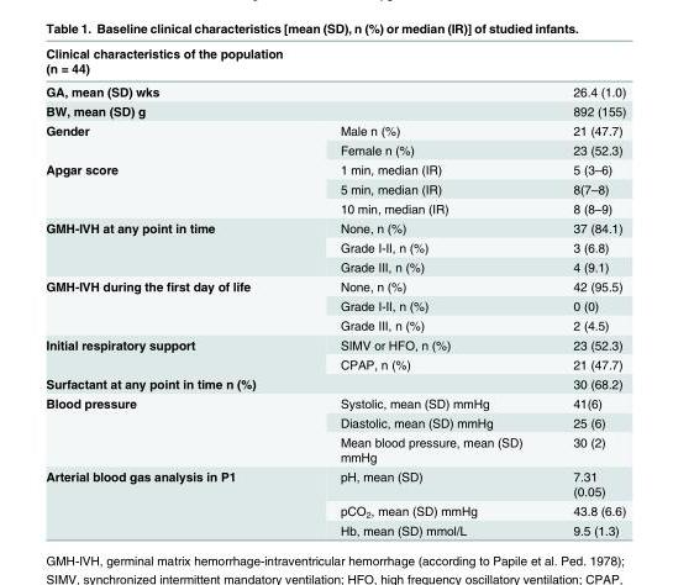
<table><thead><tr><td>Clinical characteristics of the population (n = 44)</td><td></td><td></td></tr></thead><tbody><tr><td>GA, mean (SD) wks</td><td></td><td>26.4 (1.0)</td></tr><tr><td>BW, mean (SD) g</td><td></td><td>892 (155)</td></tr><tr><td rowspan="2">Gender</td><td>Male n (%)</td><td>21 (47.7)</td></tr><tr><td>Female n (%)</td><td>23 (52.3)</td></tr><tr><td rowspan="3">Apgar score</td><td>1 min, median (IR)</td><td>5 (3–6)</td></tr><tr><td>5 min, median (IR)</td><td>8(7–8)</td></tr><tr><td>10 min, median (IR)</td><td>8 (8–9)</td></tr><tr><td rowspan="3">GMH-IVH at any point in time</td><td>None, n (%)</td><td>37 (84.1)</td></tr><tr><td>Grade I-II, n (%)</td><td>3 (6.8)</td></tr><tr><td>Grade III, n (%)</td><td>4 (9.1)</td></tr><tr><td rowspan="3">GMH-IVH during the first day of life</td><td>None, n (%)</td><td>42 (95.5)</td></tr><tr><td>Grade I-II, n (%)</td><td>0 (0)</td></tr><tr><td>Grade III, n (%)</td><td>2 (4.5)</td></tr><tr><td rowspan="2">Initial respiratory support</td><td>SIMV or HFO, n (%)</td><td>23 (52.3)</td></tr><tr><td>CPAP, n (%)</td><td>21 (47.7)</td></tr><tr><td>Surfactant at any point in time n (%)</td><td></td><td>30 (68.2)</td></tr><tr><td rowspan="3">Blood pressure</td><td>Systolic, mean (SD) mmHg</td><td>41(6)</td></tr><tr><td>Diastolic, mean (SD) mmHg</td><td>25 (6)</td></tr><tr><td>Mean blood pressure, mean (SD) mmHg</td><td>30 (2)</td></tr><tr><td rowspan="3">Arterial blood gas analysis in P1</td><td>pH, mean (SD)</td><td>7.31 (0.05)</td></tr><tr><td>pCO<sub>2</sub>, mean (SD) mmHg</td><td>43.8 (6.6)</td></tr><tr><td>Hb, mean (SD) mmol/L</td><td>9.5 (1.3)</td></tr></tbody></table>